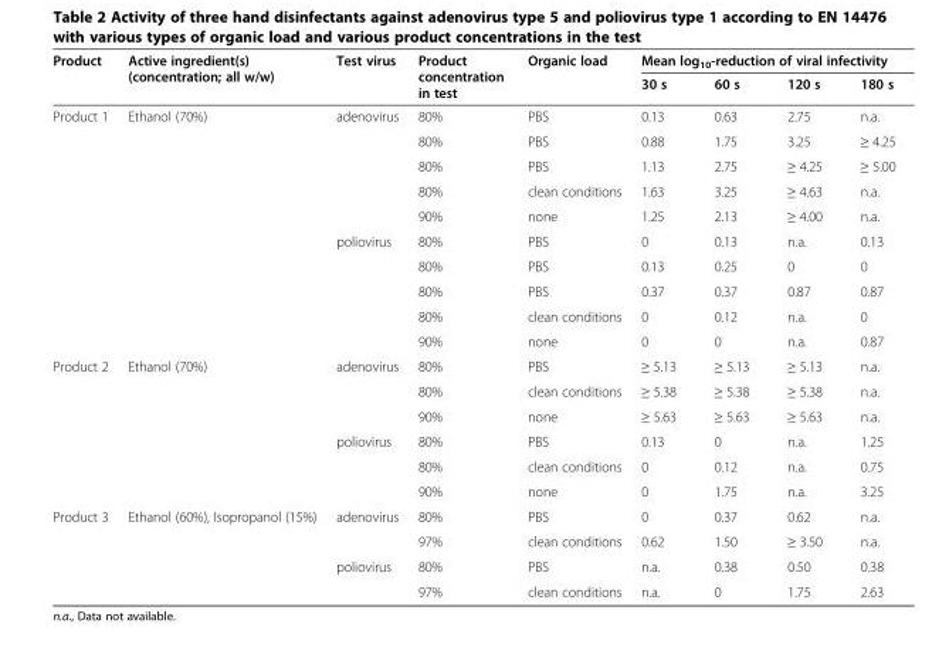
<table><thead><tr><td rowspan="2">Product</td><td rowspan="2">Active ingredient(s) (concentration; all w/w)</td><td rowspan="2">Test virus</td><td rowspan="2">Product concentration in test</td><td rowspan="2">Organic load</td><td colspan="4">Mean log<sub>10</sub>-reduction of viral infectivity</td></tr><tr><td>30 s</td><td>60 s</td><td>120 s</td><td>180 s</td></tr></thead><tbody><tr><td rowspan="10">Product 1</td><td rowspan="10">Ethanol (70%)</td><td rowspan="5">adenovirus</td><td>80%</td><td>PBS</td><td>0.13</td><td>0.63</td><td>2.75</td><td>n.a.</td></tr><tr><td>80%</td><td>PBS</td><td>0.88</td><td>1.75</td><td>3.25</td><td>≥ 4.25</td></tr><tr><td>80%</td><td>PBS</td><td>1.13</td><td>2.75</td><td>≥ 4.25</td><td>≥ 5.00</td></tr><tr><td>80%</td><td>clean conditions</td><td>1.63</td><td>3.25</td><td>≥ 4.63</td><td>n.a.</td></tr><tr><td>90%</td><td>none</td><td>1.25</td><td>2.13</td><td>≥ 4.00</td><td>n.a.</td></tr><tr><td rowspan="5">poliovirus</td><td>80%</td><td>PBS</td><td>0</td><td>0.13</td><td>n.a.</td><td>0.13</td></tr><tr><td>80%</td><td>PBS</td><td>0.13</td><td>0.25</td><td>0</td><td>0</td></tr><tr><td>80%</td><td>PBS</td><td>0.37</td><td>0.37</td><td>0.87</td><td>0.87</td></tr><tr><td>80%</td><td>clean conditions</td><td>0</td><td>0.12</td><td>n.a.</td><td>0</td></tr><tr><td>90%</td><td>none</td><td>0</td><td>0</td><td>n.a.</td><td>0.87</td></tr><tr><td rowspan="6">Product 2</td><td rowspan="6">Ethanol (70%)</td><td rowspan="3">adenovirus</td><td>80%</td><td>PBS</td><td>≥ 5.13</td><td>≥ 5.13</td><td>≥ 5.13</td><td>n.a.</td></tr><tr><td>80%</td><td>clean conditions</td><td>≥ 5.38</td><td>≥ 5.38</td><td>≥ 5.38</td><td>n.a.</td></tr><tr><td>90%</td><td>none</td><td>≥ 5.63</td><td>≥ 5.63</td><td>≥ 5.63</td><td>n.a.</td></tr><tr><td rowspan="3">poliovirus</td><td>80%</td><td>PBS</td><td>0.13</td><td>0</td><td>n.a.</td><td>1.25</td></tr><tr><td>80%</td><td>clean conditions</td><td>0</td><td>0.12</td><td>n.a.</td><td>0.75</td></tr><tr><td>90%</td><td>none</td><td>0</td><td>1.75</td><td>n.a.</td><td>3.25</td></tr><tr><td rowspan="4">Product 3</td><td rowspan="4">Ethanol (60%), Isopropanol (15%)</td><td rowspan="2">adenovirus</td><td>80%</td><td>PBS</td><td>0</td><td>0.37</td><td>0.62</td><td>n.a.</td></tr><tr><td>97%</td><td>clean conditions</td><td>0.62</td><td>1.50</td><td>≥ 3.50</td><td>n.a.</td></tr><tr><td rowspan="2">poliovirus</td><td>80%</td><td>PBS</td><td>n.a.</td><td>0.38</td><td>0.50</td><td>0.38</td></tr><tr><td>97%</td><td>clean conditions</td><td>n.a.</td><td>0</td><td>1.75</td><td>2.63</td></tr></tbody></table>